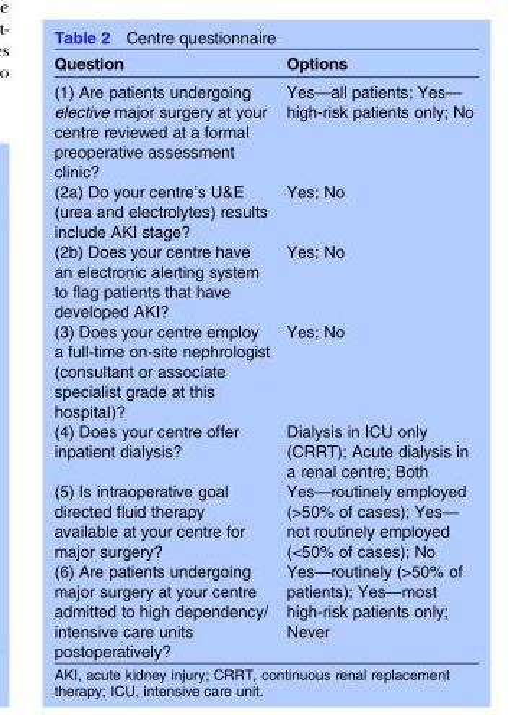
<table><thead><tr><td>Question</td><td>Options</td></tr></thead><tbody><tr><td>(1) Are patients undergoing elective major surgery at your centre reviewed at a formal preoperative assessment clinic?</td><td>Yes—all patients; Yes— high-risk patients only; No</td></tr><tr><td>(2a) Do your centre’s U&amp;E (urea and electrolytes) results include AKI stage?</td><td>Yes; No</td></tr><tr><td>(2b) Does your centre have an electronic alerting system to flag patients that have developed AKI?</td><td>Yes; No</td></tr><tr><td>(3) Does your centre employ a full-time on-site nephrologist (consultant or associate specialist grade at this hospital)?</td><td>Yes; No</td></tr><tr><td>(4) Does your centre offer inpatient dialysis?</td><td>Dialysis in ICU only (CRRT); Acute dialysis in a renal centre; Both</td></tr><tr><td>(5) Is intraoperative goal directed fluid therapy available at your centre for major surgery?</td><td>Yes—routinely employed (&gt;50% of cases); Yes— not routinely employed (&lt;50% of cases); No</td></tr><tr><td>(6) Are patients undergoing major surgery at your centre admitted to high dependency/ intensive care units postoperatively?</td><td>Yes—routinely (&gt;50% of patients); Yes—most high-risk patients only; Never</td></tr></tbody></table>